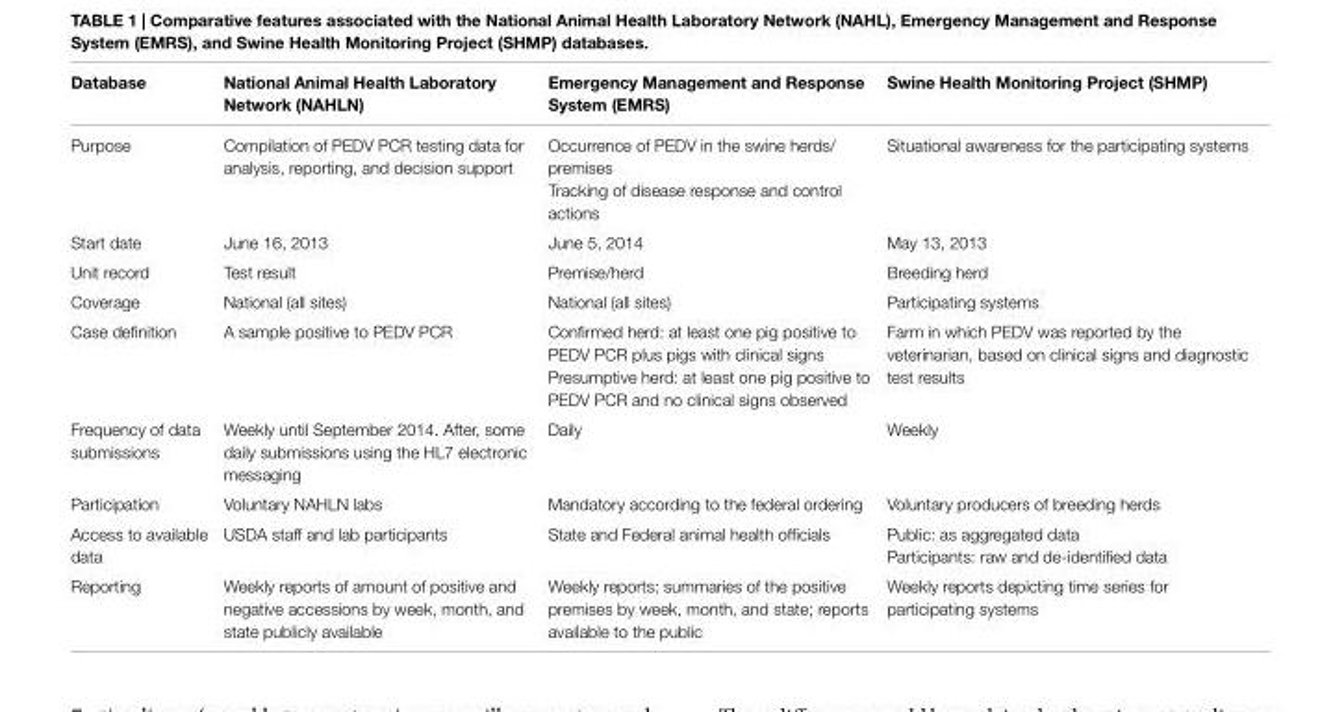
<table><thead><tr><td>Database</td><td>National animal Health Laboratory Network (NaHLN)</td><td>emergency Management and Response system (eMRs)</td><td>swine Health Monitoring project (sHMp)</td></tr></thead><tbody><tr><td rowspan="2">Purpose</td><td rowspan="2">Compilation of PEDV PCR testing data for analysis, reporting, and decision support</td><td>Occurrence of PEDV in the swine herds/ premises</td><td rowspan="2">Situational awareness for the participating systems</td></tr><tr><td>Tracking of disease response and control actions</td></tr><tr><td>Start date</td><td>June 16, 2013</td><td>June 5, 2014</td><td>May 13, 2013</td></tr><tr><td>Unit record</td><td>Test result</td><td>Premise/herd</td><td>Breeding herd</td></tr><tr><td>Coverage</td><td>National (all sites)</td><td>National (all sites)</td><td>Participating systems</td></tr><tr><td rowspan="2">Case definition</td><td rowspan="2">A sample positive to PEDV PCR</td><td>Confirmed herd: at least one pig positive to PEDV PCR plus pigs with clinical signs</td><td rowspan="2">Farm in which PEDV was reported by the veterinarian, based on clinical signs and diagnostic test results</td></tr><tr><td>Presumptive herd: at least one pig positive to PEDV PCR and no clinical signs observed</td></tr><tr><td>Frequency of data submissions</td><td>Weekly until September 2014. After, some daily submissions using the HL7 electronic messaging</td><td>Daily</td><td>Weekly</td></tr><tr><td>Participation</td><td>Voluntary NAHLN labs</td><td>Mandatory according to the federal ordering</td><td>Voluntary producers of breeding herds</td></tr><tr><td rowspan="2">Access to available data</td><td rowspan="2">USDA staff and lab participants</td><td rowspan="2">State and Federal animal health officials</td><td>Public: as aggregated data</td></tr><tr><td>Participants: raw and de-identified data</td></tr><tr><td>Reporting</td><td>Weekly reports of amount of positive and negative accessions by week, month, and state publicly available</td><td>Weekly reports; summaries of the positive premises by week, month, and state; reports available to the public</td><td>Weekly reports depicting time series for participating systems</td></tr></tbody></table>